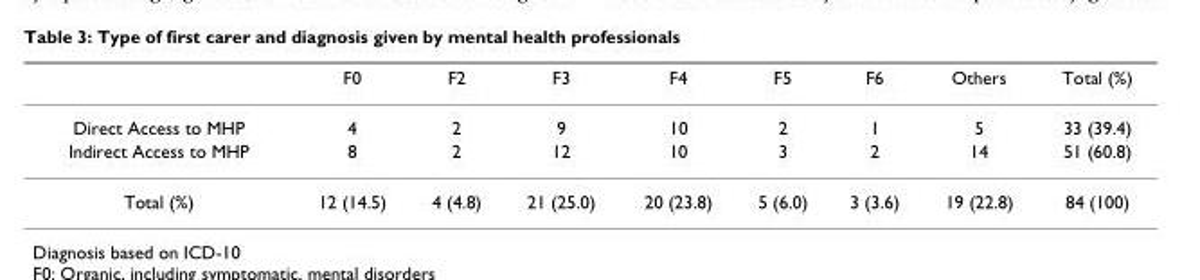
<table><thead><tr><td></td><td>F0</td><td>F2</td><td>F3</td><td>F4</td><td>F5</td><td>F6</td><td>Others</td><td>Total (%)</td></tr></thead><tbody><tr><td>Direct Access to MHP</td><td>4</td><td>2</td><td>9</td><td>10</td><td>2</td><td>1</td><td>5</td><td>33 (39.4)</td></tr><tr><td>Indirect Access to MHP</td><td>8</td><td>2</td><td>12</td><td>10</td><td>3</td><td>2</td><td>14</td><td>51 (60.8)</td></tr><tr><td>Total (%)</td><td>12 (14.5)</td><td>4 (4.8)</td><td>21 (25.0)</td><td>20 (23.8)</td><td>5 (6.0)</td><td>3 (3.6)</td><td>19 (22.8)</td><td>84 (100)</td></tr></tbody></table>